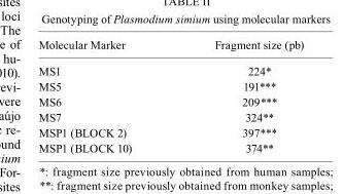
<table><thead><tr><td>Molecular Marker</td><td>Fragment size (pb)</td></tr></thead><tbody><tr><td>MS1</td><td>224*</td></tr><tr><td>MS5</td><td>191***</td></tr><tr><td>MS6</td><td>209***</td></tr><tr><td>MS7</td><td>324**</td></tr><tr><td>MSP1 (BLOCK 2)</td><td>397***</td></tr><tr><td>MSP1 (BLOCK 10)</td><td>374**</td></tr></tbody></table>